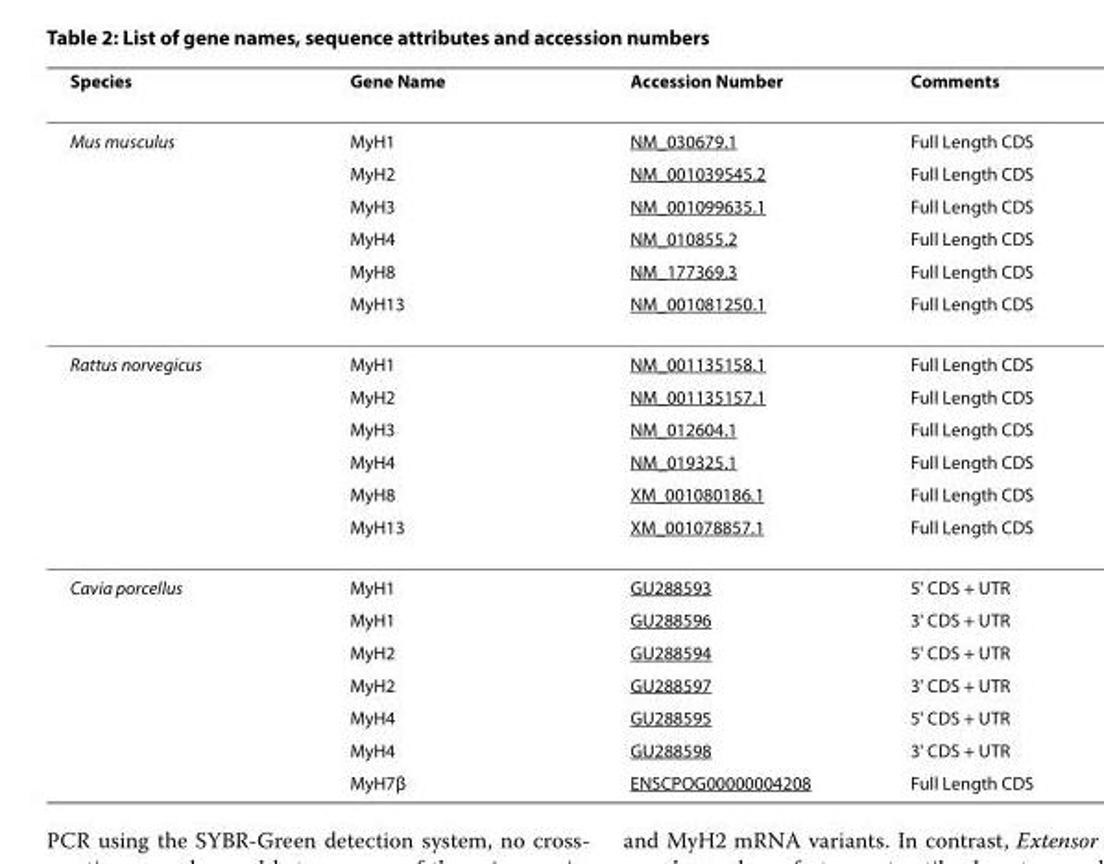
<table><thead><tr><td>Species</td><td>Gene Name</td><td>Accession Number</td><td>Comments</td></tr></thead><tbody><tr><td rowspan="6">Mus musculus</td><td>MyH1</td><td>NM_030679.1</td><td>Full Length CDS</td></tr><tr><td>MyH2</td><td>NM_001039545.2</td><td>Full Length CDS</td></tr><tr><td>MyH3</td><td>NM_001099635.1</td><td>Full Length CDS</td></tr><tr><td>MyH4</td><td>NM_010855.2</td><td>Full Length CDS</td></tr><tr><td>MyH8</td><td>NM_177369.3</td><td>Full Length CDS</td></tr><tr><td>MyH13</td><td>NM_001081250.1</td><td>Full Length CDS</td></tr><tr><td rowspan="6">Rattus norvegicus</td><td>MyH1</td><td>NM_001135158.1</td><td>Full Length CDS</td></tr><tr><td>MyH2</td><td>NM_001135157.1</td><td>Full Length CDS</td></tr><tr><td>MyH3</td><td>NM_012604.1</td><td>Full Length CDS</td></tr><tr><td>MyH4</td><td>NM_019325.1</td><td>Full Length CDS</td></tr><tr><td>MyH8</td><td>XM_001080186.1</td><td>Full Length CDS</td></tr><tr><td>MyH13</td><td>XM_001078857.1</td><td>Full Length CDS</td></tr><tr><td rowspan="7">Cavia porcellus</td><td>MyH1</td><td>GU288593</td><td>5&#x27; CDS + UTR</td></tr><tr><td>MyH1</td><td>GU288596</td><td>3&#x27; CDS + UTR</td></tr><tr><td>MyH2</td><td>GU288594</td><td>5&#x27; CDS + UTR</td></tr><tr><td>MyH2</td><td>GU288597</td><td>3&#x27; CDS + UTR</td></tr><tr><td>MyH4</td><td>GU288595</td><td>5&#x27; CDS + UTR</td></tr><tr><td>MyH4</td><td>GU288598</td><td>3&#x27; CDS + UTR</td></tr><tr><td>MyH7β</td><td>ENSCPOG00000004208</td><td>Full Length CDS</td></tr></tbody></table>